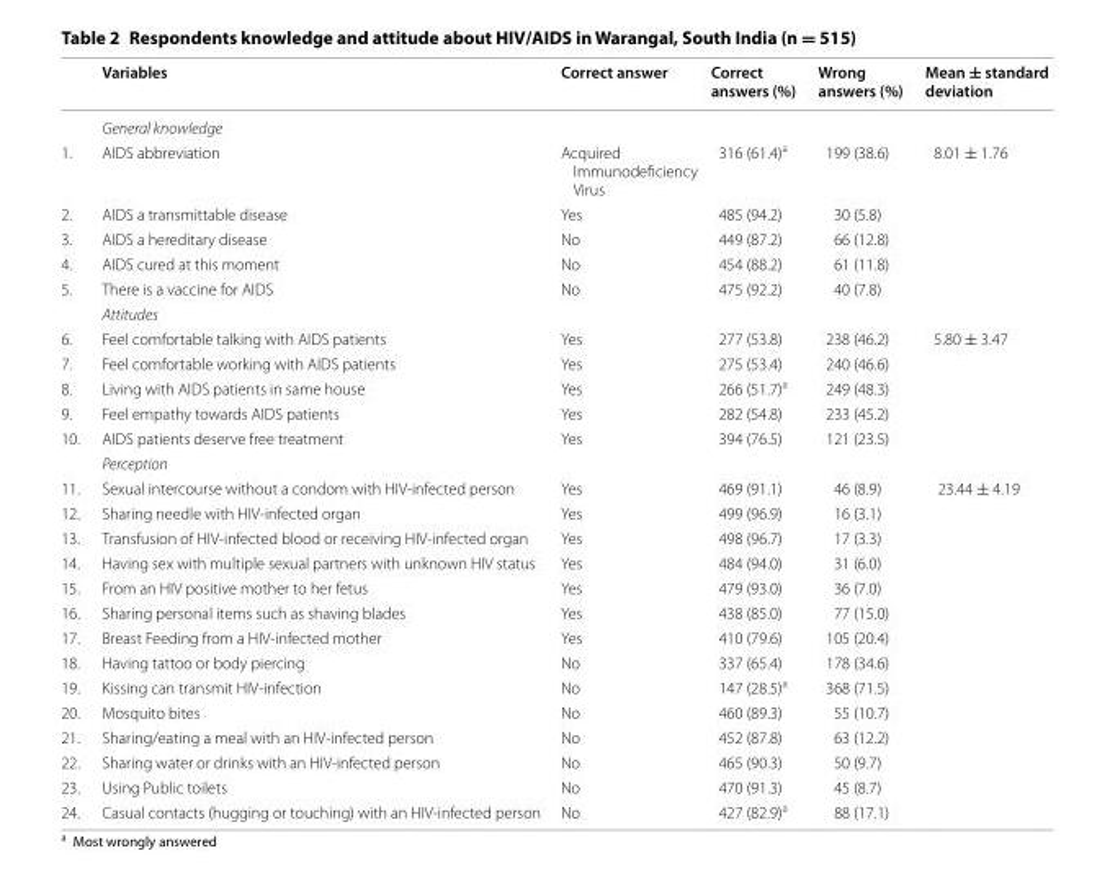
<table><thead><tr><td></td><td>Variables</td><td>Correct answer</td><td>Correct answers (%)</td><td>Wrong answers (%)</td><td>Mean ± standard deviation</td></tr></thead><tbody><tr><td></td><td colspan="5">General knowledge</td></tr><tr><td>1.</td><td>AIDS abbreviation</td><td>Acquired Immunodeficiency Virus</td><td>316 (61.4)<sup>a</sup></td><td>199 (38.6)</td><td rowspan="5">8.01 ± 1.76</td></tr><tr><td>2.</td><td>AIDS a transmittable disease</td><td>Yes</td><td>485 (94.2)</td><td>30 (5.8)</td></tr><tr><td>3.</td><td>AIDS a hereditary disease</td><td>No</td><td>449 (87.2)</td><td>66 (12.8)</td></tr><tr><td>4.</td><td>AIDS cured at this moment</td><td>No</td><td>454 (88.2)</td><td>61 (11.8)</td></tr><tr><td rowspan="2">5.</td><td>There is a vaccine for AIDS</td><td>No</td><td>475 (92.2)</td><td>40 (7.8)</td></tr><tr><td colspan="4">Attitudes</td><td></td></tr><tr><td>6.</td><td>Feel comfortable talking with AIDS patients</td><td>Yes</td><td>277 (53.8)</td><td>238 (46.2)</td><td rowspan="5">5.80 ± 3.47</td></tr><tr><td>7.</td><td>Feel comfortable working with AIDS patients</td><td>Yes</td><td>275 (53.4)</td><td>240 (46.6)</td></tr><tr><td>8.</td><td>Living with AIDS patients in same house</td><td>Yes</td><td>266 (51.7)<sup>a</sup></td><td>249 (48.3)</td></tr><tr><td>9.</td><td>Feel empathy towards AIDS patients</td><td>Yes</td><td>282 (54.8)</td><td>233 (45.2)</td></tr><tr><td rowspan="2">10.</td><td>AIDS patients deserve free treatment</td><td>Yes</td><td>394 (76.5)</td><td>121 (23.5)</td></tr><tr><td colspan="4">Perception</td><td></td></tr><tr><td>11.</td><td>Sexual intercourse without a condom with HIV-infected person</td><td>Yes</td><td>469 (91.1)</td><td>46 (8.9)</td><td rowspan="14">23.44 ± 4.19</td></tr><tr><td>12.</td><td>Sharing needle with HIV-infected organ</td><td>Yes</td><td>499 (96.9)</td><td>16 (3.1)</td></tr><tr><td>13.</td><td>Transfusion of HIV-infected blood or receiving HIV-infected organ</td><td>Yes</td><td>498 (96.7)</td><td>17 (3.3)</td></tr><tr><td>14.</td><td>Having sex with multiple sexual partners with unknown HIV status</td><td>Yes</td><td>484 (94.0)</td><td>31 (6.0)</td></tr><tr><td>15.</td><td>From an HIV positive mother to her fetus</td><td>Yes</td><td>479 (93.0)</td><td>36 (7.0)</td></tr><tr><td>16.</td><td>Sharing personal items such as shaving blades</td><td>Yes</td><td>438 (85.0)</td><td>77 (15.0)</td></tr><tr><td>17.</td><td>Breast Feeding from a HIV-infected mother</td><td>Yes</td><td>410 (79.6)</td><td>105 (20.4)</td></tr><tr><td>18.</td><td>Having tattoo or body piercing</td><td>No</td><td>337 (65.4)</td><td>178 (34.6)</td></tr><tr><td>19.</td><td>Kissing can transmit HIV-infection</td><td>No</td><td>147 (28.5)<sup>a</sup></td><td>368 (71.5)</td></tr><tr><td>20.</td><td>Mosquito bites</td><td>No</td><td>460 (89.3)</td><td>55 (10.7)</td></tr><tr><td>21.</td><td>Sharing/eating a meal with an HIV-infected person</td><td>No</td><td>452 (87.8)</td><td>63 (12.2)</td></tr><tr><td>22.</td><td>Sharing water or drinks with an HIV-infected person</td><td>No</td><td>465 (90.3)</td><td>50 (9.7)</td></tr><tr><td>23.</td><td>Using Public toilets</td><td>No</td><td>470 (91.3)</td><td>45 (8.7)</td></tr><tr><td>24.</td><td>Casual contacts (hugging or touching) with an HIV-infected person</td><td>No</td><td>427 (82.9)<sup>a</sup></td><td>88 (17.1)</td></tr></tbody></table>